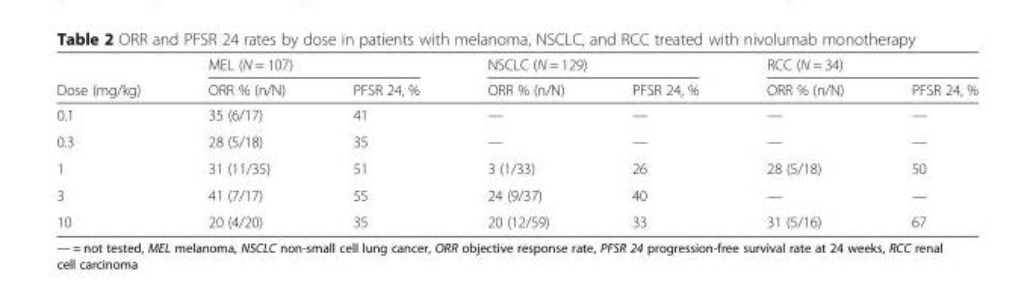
<table><thead><tr><td rowspan="2">Dose (mg/kg)</td><td colspan="2">MEL (N = 107)</td><td colspan="2">NSCLC (N = 129)</td><td colspan="2">RCC (N = 34)</td></tr><tr><td>ORR % (n/N)</td><td>PFSR 24, %</td><td>ORR % (n/N)</td><td>PFSR 24, %</td><td>ORR % (n/N)</td><td>PFSR 24, %</td></tr></thead><tbody><tr><td>0.1</td><td>35 (6/17)</td><td>41</td><td>—</td><td>—</td><td>—</td><td>—</td></tr><tr><td>0.3</td><td>28 (5/18)</td><td>35</td><td>—</td><td>—</td><td>—</td><td>—</td></tr><tr><td>1</td><td>31 (11/35)</td><td>51</td><td>3 (1/33)</td><td>26</td><td>28 (5/18)</td><td>50</td></tr><tr><td>3</td><td>41 (7/17)</td><td>55</td><td>24 (9/37)</td><td>40</td><td>—</td><td>—</td></tr><tr><td>10</td><td>20 (4/20)</td><td>35</td><td>20 (12/59)</td><td>33</td><td>31 (5/16)</td><td>67</td></tr></tbody></table>